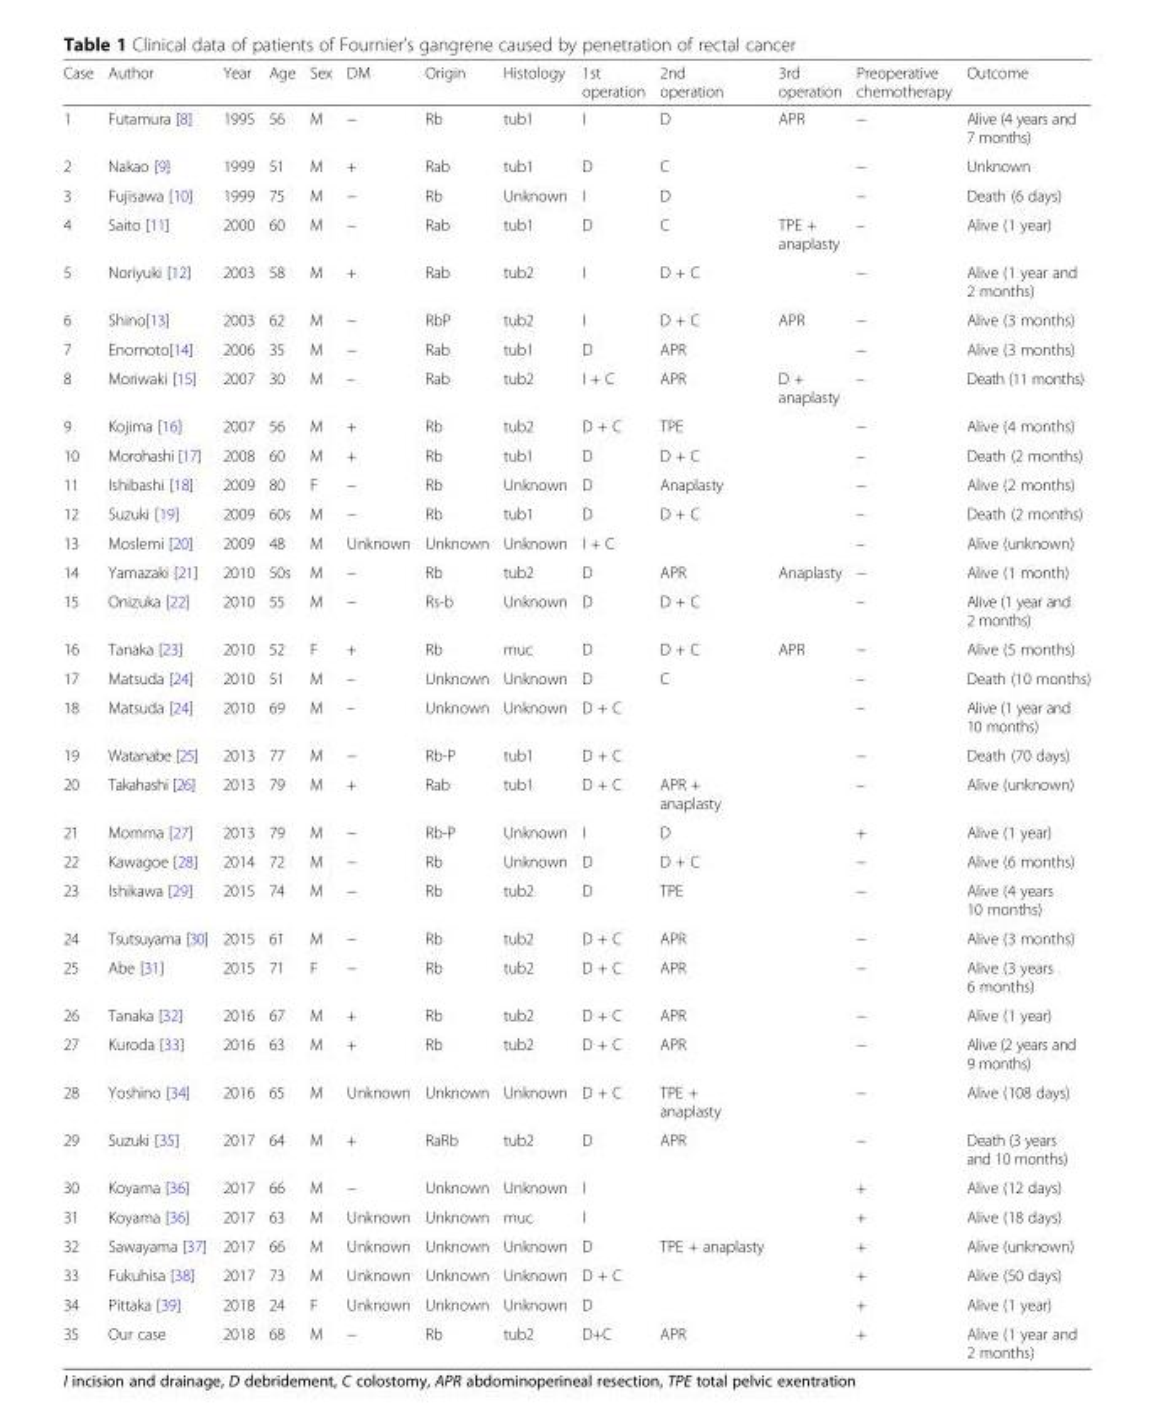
<table><thead><tr><td>Case</td><td>Author</td><td>Year</td><td>Age</td><td>Sex</td><td>DM</td><td>Origin</td><td>Histology</td><td>1st operation</td><td>2nd operation</td><td>3rd operation</td><td>Preoperative chemotherapy</td><td>Outcome</td></tr></thead><tbody><tr><td>1</td><td>Futamura [8]</td><td>1995</td><td>56</td><td>M</td><td>−</td><td>Rb</td><td>tub1</td><td>I</td><td>D</td><td>APR</td><td>−</td><td>Alive (4 years and 7 months)</td></tr><tr><td>2</td><td>Nakao [9]</td><td>1999</td><td>51</td><td>M</td><td>+</td><td>Rab</td><td>tub1</td><td>D</td><td>C</td><td></td><td>−</td><td>Unknown</td></tr><tr><td>3</td><td>Fujisawa [10]</td><td>1999</td><td>75</td><td>M</td><td>−</td><td>Rb</td><td>Unknown</td><td>I</td><td>D</td><td></td><td>−</td><td>Death (6 days)</td></tr><tr><td>4</td><td>Saito [11]</td><td>2000</td><td>60</td><td>M</td><td>−</td><td>Rab</td><td>tub1</td><td>D</td><td>C</td><td>TPE + anaplasty</td><td>–</td><td>Alive (1 year)</td></tr><tr><td>5</td><td>Noriyuki [12]</td><td>2003</td><td>58</td><td>M</td><td>+</td><td>Rab</td><td>tub2</td><td>I</td><td>D + C</td><td></td><td>−</td><td>Alive (1 year and 2 months)</td></tr><tr><td>6</td><td>Shino[13]</td><td>2003</td><td>62</td><td>M</td><td>−</td><td>RbP</td><td>tub2</td><td>I</td><td>D + C</td><td>APR</td><td>−</td><td>Alive (3 months)</td></tr><tr><td>7</td><td>Enomoto[14]</td><td>2006</td><td>35</td><td>M</td><td>−</td><td>Rab</td><td>tub1</td><td>D</td><td>APR</td><td></td><td>−</td><td>Alive (3 months)</td></tr><tr><td>8</td><td>Moriwaki [15]</td><td>2007</td><td>30</td><td>M</td><td>–</td><td>Rab</td><td>tub2</td><td>I + C</td><td>APR</td><td>D + anaplasty</td><td>–</td><td>Death (11 months)</td></tr><tr><td>9</td><td>Kojima [16]</td><td>2007</td><td>56</td><td>M</td><td>+</td><td>Rb</td><td>tub2</td><td>D + C</td><td>TPE</td><td></td><td>−</td><td>Alive (4 months)</td></tr><tr><td>10</td><td>Morohashi [17]</td><td>2008</td><td>60</td><td>M</td><td>+</td><td>Rb</td><td>tub1</td><td>D</td><td>D + C</td><td></td><td>–</td><td>Death (2 months)</td></tr><tr><td>11</td><td>Ishibashi [18]</td><td>2009</td><td>80</td><td>F</td><td>−</td><td>Rb</td><td>Unknown</td><td>D</td><td>Anaplasty</td><td></td><td>−</td><td>Alive (2 months)</td></tr><tr><td>12</td><td>Suzuki [19]</td><td>2009</td><td>60s</td><td>M</td><td>−</td><td>Rb</td><td>tub1</td><td>D</td><td>D + C</td><td></td><td>–</td><td>Death (2 months)</td></tr><tr><td>13</td><td>Moslemi [20]</td><td>2009</td><td>48</td><td>M</td><td>Unknown</td><td>Unknown</td><td>Unknown</td><td>I + C</td><td></td><td></td><td>–</td><td>Alive (unknown)</td></tr><tr><td>14</td><td>Yamazaki [21]</td><td>2010</td><td>50s</td><td>M</td><td>−</td><td>Rb</td><td>tub2</td><td>D</td><td>APR</td><td>Anaplasty</td><td>−</td><td>Alive (1 month)</td></tr><tr><td>15</td><td>Onizuka [22]</td><td>2010</td><td>55</td><td>M</td><td>−</td><td>Rs-b</td><td>Unknown</td><td>D</td><td>D + C</td><td></td><td>–</td><td>Alive (1 year and 2 months)</td></tr><tr><td>16</td><td>Tanaka [23]</td><td>2010</td><td>52</td><td>F</td><td>+</td><td>Rb</td><td>muc</td><td>D</td><td>D + C</td><td>APR</td><td>−</td><td>Alive (5 months)</td></tr><tr><td>17</td><td>Matsuda [24]</td><td>2010</td><td>51</td><td>M</td><td>–</td><td>Unknown</td><td>Unknown</td><td>D</td><td>C</td><td></td><td>–</td><td>Death (10 months)</td></tr><tr><td>18</td><td>Matsuda [24]</td><td>2010</td><td>69</td><td>M</td><td>–</td><td>Unknown</td><td>Unknown</td><td>D + C</td><td></td><td></td><td>–</td><td>Alive (1 year and 10 months)</td></tr><tr><td>19</td><td>Watanabe [25]</td><td>2013</td><td>77</td><td>M</td><td>−</td><td>Rb-P</td><td>tub1</td><td>D + C</td><td></td><td></td><td>−</td><td>Death (70 days)</td></tr><tr><td>20</td><td>Takahashi [26]</td><td>2013</td><td>79</td><td>M</td><td>+</td><td>Rab</td><td>tub1</td><td>D + C</td><td>APR + anaplasty</td><td></td><td>–</td><td>Alive (unknown)</td></tr><tr><td>21</td><td>Momma [27]</td><td>2013</td><td>79</td><td>M</td><td>−</td><td>Rb-P</td><td>Unknown</td><td>I</td><td>D</td><td></td><td>+</td><td>Alive (1 year)</td></tr><tr><td>22</td><td>Kawagoe [28]</td><td>2014</td><td>72</td><td>M</td><td>−</td><td>Rb</td><td>Unknown</td><td>D</td><td>D + C</td><td></td><td>−</td><td>Alive (6 months)</td></tr><tr><td>23</td><td>Ishikawa [29]</td><td>2015</td><td>74</td><td>M</td><td>−</td><td>Rb</td><td>tub2</td><td>D</td><td>TPE</td><td></td><td>−</td><td>Alive (4 years 10 months)</td></tr><tr><td>24</td><td>Tsutsuyama [30]</td><td>2015</td><td>61</td><td>M</td><td>−</td><td>Rb</td><td>tub2</td><td>D + C</td><td>APR</td><td></td><td>−</td><td>Alive (3 months)</td></tr><tr><td>25</td><td>Abe [31]</td><td>2015</td><td>71</td><td>F</td><td>−</td><td>Rb</td><td>tub2</td><td>D + C</td><td>APR</td><td></td><td>−</td><td>Alive (3 years 6 months)</td></tr><tr><td>26</td><td>Tanaka [32]</td><td>2016</td><td>67</td><td>M</td><td>+</td><td>Rb</td><td>tub2</td><td>D + C</td><td>APR</td><td></td><td>−</td><td>Alive (1 year)</td></tr><tr><td>27</td><td>Kuroda [33]</td><td>2016</td><td>63</td><td>M</td><td>+</td><td>Rb</td><td>tub2</td><td>D + C</td><td>APR</td><td></td><td>−</td><td>Alive (2 years and 9 months)</td></tr><tr><td>28</td><td>Yoshino [34]</td><td>2016</td><td>65</td><td>M</td><td>Unknown</td><td>Unknown</td><td>Unknown</td><td>D + C</td><td>TPE + anaplasty</td><td></td><td>−</td><td>Alive (108 days)</td></tr><tr><td>29</td><td>Suzuki [35]</td><td>2017</td><td>64</td><td>M</td><td>+</td><td>RaRb</td><td>tub2</td><td>D</td><td>APR</td><td></td><td>−</td><td>Death (3 years and 10 months)</td></tr><tr><td>30</td><td>Koyama [36]</td><td>2017</td><td>66</td><td>M</td><td>−</td><td>Unknown</td><td>Unknown</td><td>I</td><td></td><td></td><td>+</td><td>Alive (12 days)</td></tr><tr><td>31</td><td>Koyama [36]</td><td>2017</td><td>63</td><td>M</td><td>Unknown</td><td>Unknown</td><td>muc</td><td>I</td><td></td><td></td><td>+</td><td>Alive (18 days)</td></tr><tr><td>32</td><td>Sawayama [37]</td><td>2017</td><td>66</td><td>M</td><td>Unknown</td><td>Unknown</td><td>Unknown</td><td>D</td><td>TPE + anaplasty</td><td></td><td>+</td><td>Alive (unknown)</td></tr><tr><td>33</td><td>Fukuhisa [38]</td><td>2017</td><td>73</td><td>M</td><td>Unknown</td><td>Unknown</td><td>Unknown</td><td>D + C</td><td></td><td></td><td>+</td><td>Alive (50 days)</td></tr><tr><td>34</td><td>Pittaka [39]</td><td>2018</td><td>24</td><td>F</td><td>Unknown</td><td>Unknown</td><td>Unknown</td><td>D</td><td></td><td></td><td>+</td><td>Alive (1 year)</td></tr><tr><td>35</td><td>Our case</td><td>2018</td><td>68</td><td>M</td><td>−</td><td>Rb</td><td>tub2</td><td>D+C</td><td>APR</td><td></td><td>+</td><td>Alive (1 year and 2 months)</td></tr></tbody></table>